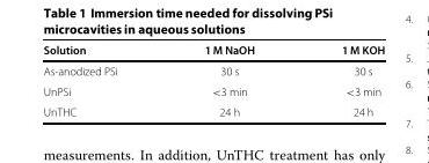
<table><thead><tr><td>Solution</td><td>1 M NaOH</td><td>1 M KOH</td></tr></thead><tbody><tr><td>As-anodized PSi</td><td>30 s</td><td>30 s</td></tr><tr><td>UnPSi</td><td>&lt;3 min</td><td>&lt;3 min</td></tr><tr><td>UnTHC</td><td>24 h</td><td>24 h</td></tr></tbody></table>